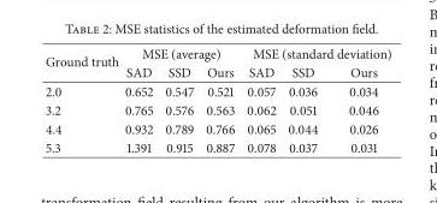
<table><thead><tr><td rowspan="2">Ground truth</td><td colspan="3">MSE (average)</td><td colspan="3">MSE (standard deviation)</td></tr><tr><td>SAD</td><td>SSD</td><td>Ours</td><td>SAD</td><td>SSD</td><td>Ours</td></tr></thead><tbody><tr><td>2.0</td><td>0.652</td><td>0.547</td><td>0.521</td><td>0.057</td><td>0.036</td><td>0.034</td></tr><tr><td>3.2</td><td>0.765</td><td>0.576</td><td>0.563</td><td>0.062</td><td>0.051</td><td>0.046</td></tr><tr><td>4.4</td><td>0.932</td><td>0.789</td><td>0.766</td><td>0.065</td><td>0.044</td><td>0.026</td></tr><tr><td>5.3</td><td>1.391</td><td>0.915</td><td>0.887</td><td>0.078</td><td>0.037</td><td>0.031</td></tr></tbody></table>